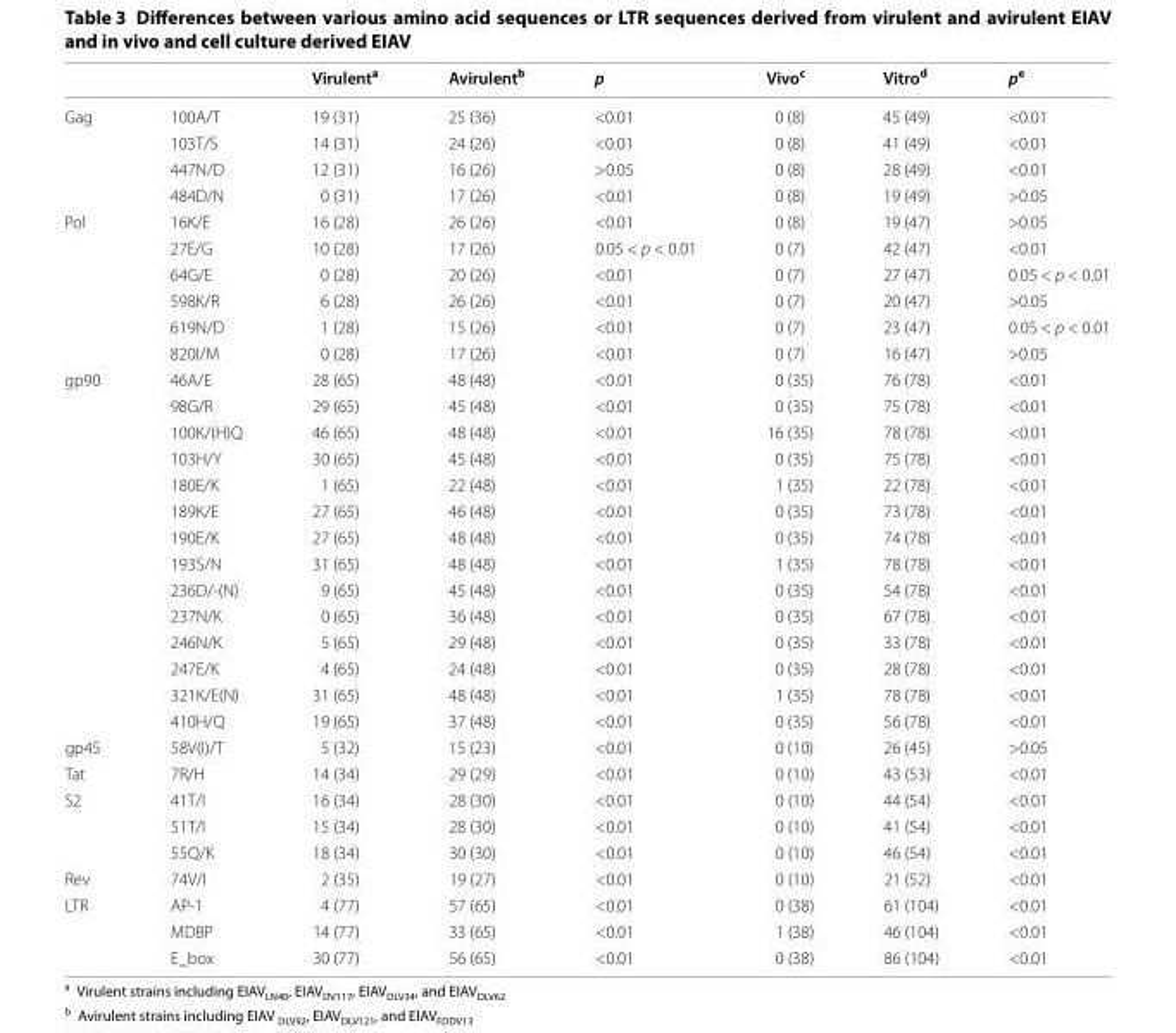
<table><thead><tr><td></td><td></td><td>Virulent<sup>a</sup></td><td>Avirulent<sup>b</sup></td><td>p</td><td>Vivo<sup>c</sup></td><td>Vitro<sup>d</sup></td><td>p<sup>e</sup></td></tr></thead><tbody><tr><td rowspan="4">Gag</td><td>100A/T</td><td>19 (31)</td><td>25 (36)</td><td>&lt;0.01</td><td>0 (8)</td><td>45 (49)</td><td>&lt;0.01</td></tr><tr><td>103T/S</td><td>14 (31)</td><td>24 (26)</td><td>&lt;0.01</td><td>0 (8)</td><td>41 (49)</td><td>&lt;0.01</td></tr><tr><td>447N/D</td><td>12 (31)</td><td>16 (26)</td><td>&gt;0.05</td><td>0 (8)</td><td>28 (49)</td><td>&lt;0.01</td></tr><tr><td>484D/N</td><td>0 (31)</td><td>17 (26)</td><td>&lt;0.01</td><td>0 (8)</td><td>19 (49)</td><td>&gt;0.05</td></tr><tr><td rowspan="6">Pol</td><td>16K/E</td><td>16 (28)</td><td>26 (26)</td><td>&lt;0.01</td><td>0 (8)</td><td>19 (47)</td><td>&gt;0.05</td></tr><tr><td>27E/G</td><td>10 (28)</td><td>17 (26)</td><td>0.05 &lt; p &lt; 0.01</td><td>0 (7)</td><td>42 (47)</td><td>&lt;0.01</td></tr><tr><td>64G/E</td><td>0 (28)</td><td>20 (26)</td><td>&lt;0.01</td><td>0 (7)</td><td>27 (47)</td><td>0.05 &lt; p &lt; 0.01</td></tr><tr><td>598K/R</td><td>6 (28)</td><td>26 (26)</td><td>&lt;0.01</td><td>0 (7)</td><td>20 (47)</td><td>&gt;0.05</td></tr><tr><td>619N/D</td><td>1 (28)</td><td>15 (26)</td><td>&lt;0.01</td><td>0 (7)</td><td>23 (47)</td><td>0.05 &lt; p &lt; 0.01</td></tr><tr><td>820I/M</td><td>0 (28)</td><td>17 (26)</td><td>&lt;0.01</td><td>0 (7)</td><td>16 (47)</td><td>&gt;0.05</td></tr><tr><td rowspan="14">gp90</td><td>46A/E</td><td>28 (65)</td><td>48 (48)</td><td>&lt;0.01</td><td>0 (35)</td><td>76 (78)</td><td>&lt;0.01</td></tr><tr><td>98G/R</td><td>29 (65)</td><td>45 (48)</td><td>&lt;0.01</td><td>0 (35)</td><td>75 (78)</td><td>&lt;0.01</td></tr><tr><td>100K/(H)Q</td><td>46 (65)</td><td>48 (48)</td><td>&lt;0.01</td><td>16 (35)</td><td>78 (78)</td><td>&lt;0.01</td></tr><tr><td>103H/Y</td><td>30 (65)</td><td>45 (48)</td><td>&lt;0.01</td><td>0 (35)</td><td>75 (78)</td><td>&lt;0.01</td></tr><tr><td>180E/K</td><td>1 (65)</td><td>22 (48)</td><td>&lt;0.01</td><td>1 (35)</td><td>22 (78)</td><td>&lt;0.01</td></tr><tr><td>189K/E</td><td>27 (65)</td><td>46 (48)</td><td>&lt;0.01</td><td>0 (35)</td><td>73 (78)</td><td>&lt;0.01</td></tr><tr><td>190E/K</td><td>27 (65)</td><td>48 (48)</td><td>&lt;0.01</td><td>0 (35)</td><td>74 (78)</td><td>&lt;0.01</td></tr><tr><td>193S/N</td><td>31 (65)</td><td>48 (48)</td><td>&lt;0.01</td><td>1 (35)</td><td>78 (78)</td><td>&lt;0.01</td></tr><tr><td>236D/‑(N)</td><td>9 (65)</td><td>45 (48)</td><td>&lt;0.01</td><td>0 (35)</td><td>54 (78)</td><td>&lt;0.01</td></tr><tr><td>237N/K</td><td>0 (65)</td><td>36 (48)</td><td>&lt;0.01</td><td>0 (35)</td><td>67 (78)</td><td>&lt;0.01</td></tr><tr><td>246N/K</td><td>5 (65)</td><td>29 (48)</td><td>&lt;0.01</td><td>0 (35)</td><td>33 (78)</td><td>&lt;0.01</td></tr><tr><td>247E/K</td><td>4 (65)</td><td>24 (48)</td><td>&lt;0.01</td><td>0 (35)</td><td>28 (78)</td><td>&lt;0.01</td></tr><tr><td>321K/E(N)</td><td>31 (65)</td><td>48 (48)</td><td>&lt;0.01</td><td>1 (35)</td><td>78 (78)</td><td>&lt;0.01</td></tr><tr><td>410H/Q</td><td>19 (65)</td><td>37 (48)</td><td>&lt;0.01</td><td>0 (35)</td><td>56 (78)</td><td>&lt;0.01</td></tr><tr><td>gp45</td><td>58V(I)/T</td><td>5 (32)</td><td>15 (23)</td><td>&lt;0.01</td><td>0 (10)</td><td>26 (45)</td><td>&gt;0.05</td></tr><tr><td>Tat</td><td>7R/H</td><td>14 (34)</td><td>29 (29)</td><td>&lt;0.01</td><td>0 (10)</td><td>43 (53)</td><td>&lt;0.01</td></tr><tr><td rowspan="3">S2</td><td>41T/I</td><td>16 (34)</td><td>28 (30)</td><td>&lt;0.01</td><td>0 (10)</td><td>44 (54)</td><td>&lt;0.01</td></tr><tr><td>51T/I</td><td>15 (34)</td><td>28 (30)</td><td>&lt;0.01</td><td>0 (10)</td><td>41 (54)</td><td>&lt;0.01</td></tr><tr><td>55Q/K</td><td>18 (34)</td><td>30 (30)</td><td>&lt;0.01</td><td>0 (10)</td><td>46 (54)</td><td>&lt;0.01</td></tr><tr><td>Rev</td><td>74V/I</td><td>2 (35)</td><td>19 (27)</td><td>&lt;0.01</td><td>0 (10)</td><td>21 (52)</td><td>&lt;0.01</td></tr><tr><td rowspan="3">LTR</td><td>AP‑1</td><td>4 (77)</td><td>57 (65)</td><td>&lt;0.01</td><td>0 (38)</td><td>61 (104)</td><td>&lt;0.01</td></tr><tr><td>MDBP</td><td>14 (77)</td><td>33 (65)</td><td>&lt;0.01</td><td>1 (38)</td><td>46 (104)</td><td>&lt;0.01</td></tr><tr><td>E_box</td><td>30 (77)</td><td>56 (65)</td><td>&lt;0.01</td><td>0 (38)</td><td>86 (104)</td><td>&lt;0.01</td></tr></tbody></table>